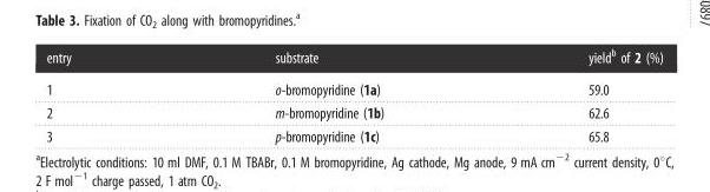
<table><thead><tr><td>entry</td><td>substrate</td><td>yield<sup>b</sup> of 2 (%)</td></tr></thead><tbody><tr><td>1</td><td>o-bromopyridine (1a)</td><td>59.0</td></tr><tr><td>2</td><td>m-bromopyridine (1b)</td><td>62.6</td></tr><tr><td>3</td><td>p-bromopyridine (1c)</td><td>65.8</td></tr></tbody></table>